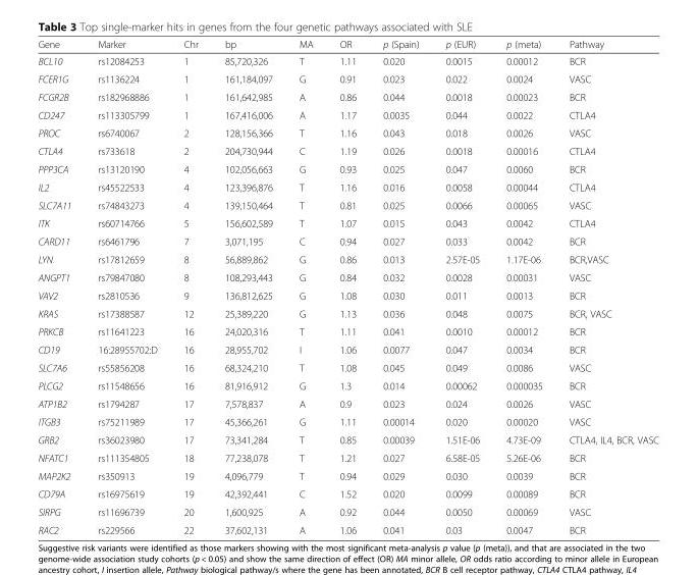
<table><thead><tr><td>Gene</td><td>Marker</td><td>Chr</td><td>bp</td><td>MA</td><td>OR</td><td>p (Spain)</td><td>p (EUR)</td><td>p (meta)</td><td>Pathway</td></tr></thead><tbody><tr><td>BCL10</td><td>rs12084253</td><td>1</td><td>85,720,326</td><td>T</td><td>1.11</td><td>0.020</td><td>0.0015</td><td>0.00012</td><td>BCR</td></tr><tr><td>FCER1G</td><td>rs1136224</td><td>1</td><td>161,184,097</td><td>G</td><td>0.91</td><td>0.023</td><td>0.022</td><td>0.0024</td><td>VASC</td></tr><tr><td>FCGR2B</td><td>rs182968886</td><td>1</td><td>161,642,985</td><td>A</td><td>0.86</td><td>0.044</td><td>0.0018</td><td>0.00023</td><td>BCR</td></tr><tr><td>CD247</td><td>rs113305799</td><td>1</td><td>167,416,006</td><td>A</td><td>1.17</td><td>0.0035</td><td>0.044</td><td>0.0022</td><td>CTLA4</td></tr><tr><td>PROC</td><td>rs6740067</td><td>2</td><td>128,156,366</td><td>T</td><td>1.16</td><td>0.043</td><td>0.018</td><td>0.0026</td><td>VASC</td></tr><tr><td>CTLA4</td><td>rs733618</td><td>2</td><td>204,730,944</td><td>C</td><td>1.19</td><td>0.026</td><td>0.0018</td><td>0.00016</td><td>CTLA4</td></tr><tr><td>PPP3CA</td><td>rs13120190</td><td>4</td><td>102,056,663</td><td>G</td><td>0.93</td><td>0.025</td><td>0.047</td><td>0.0060</td><td>BCR</td></tr><tr><td>IL2</td><td>rs45522533</td><td>4</td><td>123,396,876</td><td>T</td><td>1.16</td><td>0.016</td><td>0.0058</td><td>0.00044</td><td>CTLA4</td></tr><tr><td>SLC7A11</td><td>rs74843273</td><td>4</td><td>139,150,464</td><td>T</td><td>0.81</td><td>0.025</td><td>0.0066</td><td>0.00065</td><td>VASC</td></tr><tr><td>ITK</td><td>rs60714766</td><td>5</td><td>156,602,589</td><td>T</td><td>1.07</td><td>0.015</td><td>0.043</td><td>0.0042</td><td>CTLA4</td></tr><tr><td>CARD11</td><td>rs6461796</td><td>7</td><td>3,071,195</td><td>C</td><td>0.94</td><td>0.027</td><td>0.033</td><td>0.0042</td><td>BCR</td></tr><tr><td>LYN</td><td>rs17812659</td><td>8</td><td>56,889,862</td><td>G</td><td>0.86</td><td>0.013</td><td>2.57E-05</td><td>1.17E-06</td><td>BCR,VASC</td></tr><tr><td>ANGPT1</td><td>rs79847080</td><td>8</td><td>108,293,443</td><td>G</td><td>0.84</td><td>0.032</td><td>0.0028</td><td>0.00031</td><td>VASC</td></tr><tr><td>VAV2</td><td>rs2810536</td><td>9</td><td>136,812,625</td><td>G</td><td>1.08</td><td>0.030</td><td>0.011</td><td>0.0013</td><td>BCR</td></tr><tr><td>KRAS</td><td>rs17388587</td><td>12</td><td>25,389,220</td><td>G</td><td>1.13</td><td>0.036</td><td>0.048</td><td>0.0075</td><td>BCR, VASC</td></tr><tr><td>PRKCB</td><td>rs11641223</td><td>16</td><td>24,020,316</td><td>T</td><td>1.11</td><td>0.041</td><td>0.0010</td><td>0.00012</td><td>BCR</td></tr><tr><td>CD19</td><td>16:28955702:D</td><td>16</td><td>28,955,702</td><td>I</td><td>1.06</td><td>0.0077</td><td>0.047</td><td>0.0034</td><td>BCR</td></tr><tr><td>SLC7A6</td><td>rs55856208</td><td>16</td><td>68,324,210</td><td>T</td><td>1.08</td><td>0.045</td><td>0.049</td><td>0.0086</td><td>VASC</td></tr><tr><td>PLCG2</td><td>rs11548656</td><td>16</td><td>81,916,912</td><td>G</td><td>1.3</td><td>0.014</td><td>0.00062</td><td>0.000035</td><td>BCR</td></tr><tr><td>ATP1B2</td><td>rs1794287</td><td>17</td><td>7,578,837</td><td>A</td><td>0.9</td><td>0.023</td><td>0.024</td><td>0.0026</td><td>VASC</td></tr><tr><td>ITGB3</td><td>rs75211989</td><td>17</td><td>45,366,261</td><td>G</td><td>1.11</td><td>0.00014</td><td>0.020</td><td>0.00020</td><td>VASC</td></tr><tr><td>GRB2</td><td>rs36023980</td><td>17</td><td>73,341,284</td><td>T</td><td>0.85</td><td>0.00039</td><td>1.51E-06</td><td>4.73E-09</td><td>CTLA4, IL4, BCR, VASC</td></tr><tr><td>NFATC1</td><td>rs111354805</td><td>18</td><td>77,238,078</td><td>T</td><td>1.21</td><td>0.027</td><td>6.58E-05</td><td>5.26E-06</td><td>BCR</td></tr><tr><td>MAP2K2</td><td>rs350913</td><td>19</td><td>4,096,779</td><td>T</td><td>0.94</td><td>0.029</td><td>0.030</td><td>0.0039</td><td>BCR</td></tr><tr><td>CD79A</td><td>rs16975619</td><td>19</td><td>42,392,441</td><td>C</td><td>1.52</td><td>0.020</td><td>0.0099</td><td>0.00089</td><td>BCR</td></tr><tr><td>SIRPG</td><td>rs11696739</td><td>20</td><td>1,600,925</td><td>A</td><td>0.92</td><td>0.044</td><td>0.0050</td><td>0.00069</td><td>VASC</td></tr><tr><td>RAC2</td><td>rs229566</td><td>22</td><td>37,602,131</td><td>A</td><td>1.06</td><td>0.041</td><td>0.03</td><td>0.0047</td><td>BCR</td></tr></tbody></table>